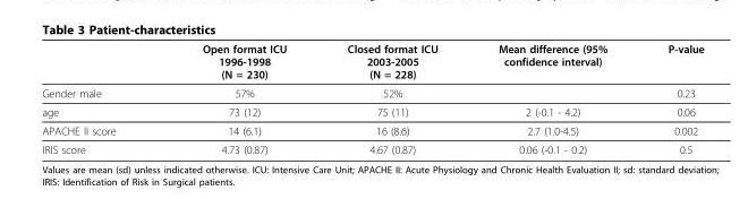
<table><thead><tr><td></td><td>Open format ICU 1996-1998 (N = 230)</td><td>Closed format ICU 2003-2005 (N = 228)</td><td>Mean difference (95% confidence interval)</td><td>P-value</td></tr></thead><tbody><tr><td>Gender male</td><td>57%</td><td>52%</td><td></td><td>0.23</td></tr><tr><td>age</td><td>73 (12)</td><td>75 (11)</td><td>2 (-0.1 - 4.2)</td><td>0.06</td></tr><tr><td>APACHE II score</td><td>14 (6.1)</td><td>16 (8.6)</td><td>2.7 (1.0-4.5)</td><td>0.002</td></tr><tr><td>IRIS score</td><td>4.73 (0.87)</td><td>4.67 (0.87)</td><td>0.06 (-0.1 - 0.2)</td><td>0.5</td></tr></tbody></table>